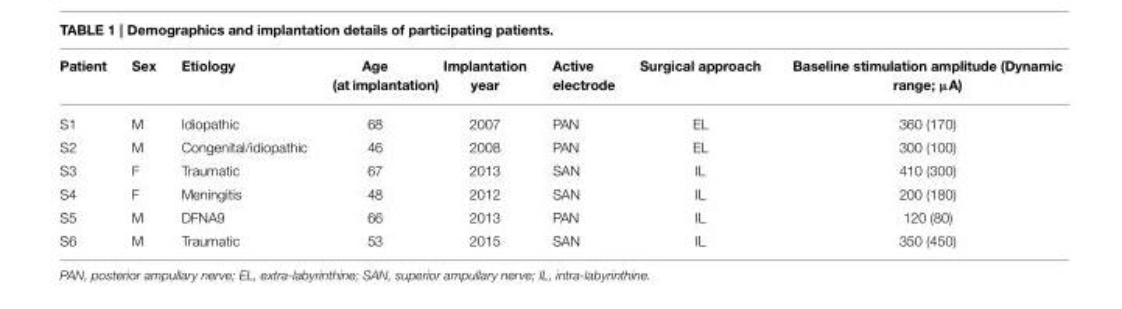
<table><thead><tr><td>Patient</td><td>Sex</td><td>Etiology</td><td>Age (at implantation)</td><td>Implantation year</td><td>Active electrode</td><td>Surgical approach</td><td>Baseline stimulation amplitude (Dynamic range; µA)</td></tr></thead><tbody><tr><td>S1</td><td>M</td><td>Idiopathic</td><td>68</td><td>2007</td><td>PAN</td><td>EL</td><td>360 (170)</td></tr><tr><td>S2</td><td>M</td><td>Congenital/idiopathic</td><td>46</td><td>2008</td><td>PAN</td><td>EL</td><td>300 (100)</td></tr><tr><td>S3</td><td>F</td><td>Traumatic</td><td>67</td><td>2013</td><td>SAN</td><td>IL</td><td>410 (300)</td></tr><tr><td>S4</td><td>F</td><td>Meningitis</td><td>48</td><td>2012</td><td>SAN</td><td>IL</td><td>200 (180)</td></tr><tr><td>S5</td><td>M</td><td>DFNA9</td><td>66</td><td>2013</td><td>PAN</td><td>IL</td><td>120 (80)</td></tr><tr><td>S6</td><td>M</td><td>Traumatic</td><td>53</td><td>2015</td><td>SAN</td><td>IL</td><td>350 (450)</td></tr></tbody></table>